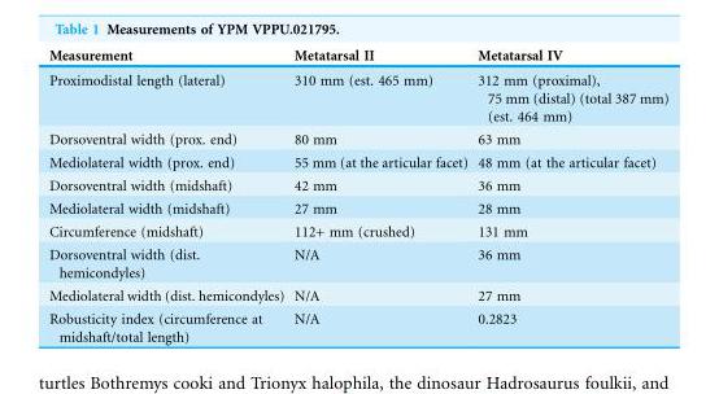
<table><thead><tr><td>Measurement</td><td>Metatarsal II</td><td>Metatarsal IV</td></tr></thead><tbody><tr><td>Proximodistal length (lateral)</td><td>310 mm (est. 465 mm)</td><td>312 mm (proximal), 75 mm (distal) (total 387 mm) (est. 464 mm)</td></tr><tr><td>Dorsoventral width (prox. end)</td><td>80 mm</td><td>63 mm</td></tr><tr><td>Mediolateral width (prox. end)</td><td>55 mm (at the articular facet)</td><td>48 mm (at the articular facet)</td></tr><tr><td>Dorsoventral width (midshaft)</td><td>42 mm</td><td>36 mm</td></tr><tr><td>Mediolateral width (midshaft)</td><td>27 mm</td><td>28 mm</td></tr><tr><td>Circumference (midshaft)</td><td>112+ mm (crushed)</td><td>131 mm</td></tr><tr><td>Dorsoventral width (dist. hemicondyles)</td><td>N/A</td><td>36 mm</td></tr><tr><td>Mediolateral width (dist. hemicondyles)</td><td>N/A</td><td>27 mm</td></tr><tr><td>Robusticity index (circumference at midshaft/total length)</td><td>N/A</td><td>0.2823</td></tr></tbody></table>